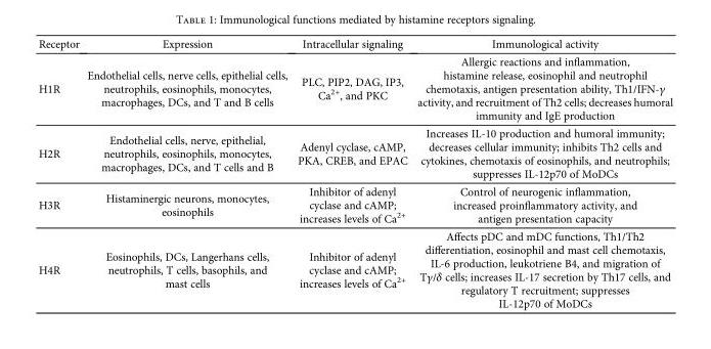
<table><thead><tr><td>Receptor</td><td>Expression</td><td>Intracellular signaling</td><td>Immunological activity</td></tr></thead><tbody><tr><td>H1R</td><td>Endothelial cells, nerve cells, epithelial cells, neutrophils, eosinophils, monocytes, macrophages, DCs, and T and B cells</td><td>PLC, PIP2, DAG, IP3, Ca<sup>2+</sup>, and PKC</td><td>Allergic reactions and inflammation, histamine release, eosinophil and neutrophil chemotaxis, antigen presentation ability, Th1/IFN-γ activity, and recruitment of Th2 cells; decreases humoral immunity and IgE production</td></tr><tr><td>H2R</td><td>Endothelial cells, nerve, epithelial, neutrophils, eosinophils, monocytes, macrophages, DCs, and T cells and B</td><td>Adenyl cyclase, cAMP, PKA, CREB, and EPAC</td><td>Increases IL-10 production and humoral immunity; decreases cellular immunity; inhibits Th2 cells and cytokines, chemotaxis of eosinophils, and neutrophils; suppresses IL-12p70 of MoDCs</td></tr><tr><td>H3R</td><td>Histaminergic neurons, monocytes, eosinophils</td><td>Inhibitor of adenyl cyclase and cAMP; increases levels of Ca<sup>2+</sup></td><td>Control of neurogenic inflammation, increased proinflammatory activity, and antigen presentation capacity</td></tr><tr><td>H4R</td><td>Eosinophils, DCs, Langerhans cells, neutrophils, T cells, basophils, and mast cells</td><td>Inhibitor of adenyl cyclase and cAMP; increases levels of Ca<sup>2+</sup></td><td>Affects pDC and mDC functions, Th1/Th2 differentiation, eosinophil and mast cell chemotaxis, IL-6 production, leukotriene B4, and migration of Tγ/δ cells; increases IL-17 secretion by Th17 cells, and regulatory T recruitment; suppresses IL-12p70 of MoDCs</td></tr></tbody></table>